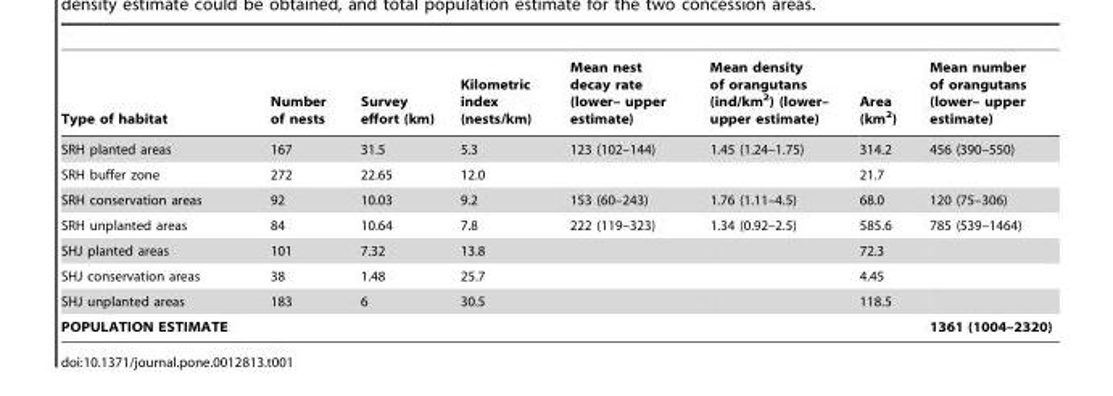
<table><thead><tr><td>Type of habitat</td><td>Number of nests</td><td>Survey effort (km)</td><td>Kilometric index (nests/km)</td><td>Mean nest decay rate (lower– upper estimate)</td><td>Mean density of orangutans (ind/km<sup>2</sup>) (lower– upper estimate)</td><td>Area (km<sup>2</sup>)</td><td>Mean number of orangutans (lower– upper estimate)</td></tr></thead><tbody><tr><td>SRH planted areas</td><td>167</td><td>31.5</td><td>5.3</td><td>123 (102–144)</td><td>1.45 (1.24–1.75)</td><td>314.2</td><td>456 (390–550)</td></tr><tr><td>SRH buffer zone</td><td>272</td><td>22.65</td><td>12.0</td><td></td><td></td><td>21.7</td><td></td></tr><tr><td>SRH conservation areas</td><td>92</td><td>10.03</td><td>9.2</td><td>153 (60–243)</td><td>1.76 (1.11–4.5)</td><td>68.0</td><td>120 (75–306)</td></tr><tr><td>SRH unplanted areas</td><td>84</td><td>10.64</td><td>7.8</td><td>222 (119–323)</td><td>1.34 (0.92–2.5)</td><td>585.6</td><td>785 (539–1464)</td></tr><tr><td>SHJ planted areas</td><td>101</td><td>7.32</td><td>13.8</td><td></td><td></td><td>72.3</td><td></td></tr><tr><td>SHJ conservation areas</td><td>38</td><td>1.48</td><td>25.7</td><td></td><td></td><td>4.45</td><td></td></tr><tr><td>SHJ unplanted areas</td><td>183</td><td>6</td><td>30.5</td><td></td><td></td><td>118.5</td><td></td></tr><tr><td colspan="7">POPULATION ESTIMATE</td><td>1361 (1004–2320)</td></tr></tbody></table>